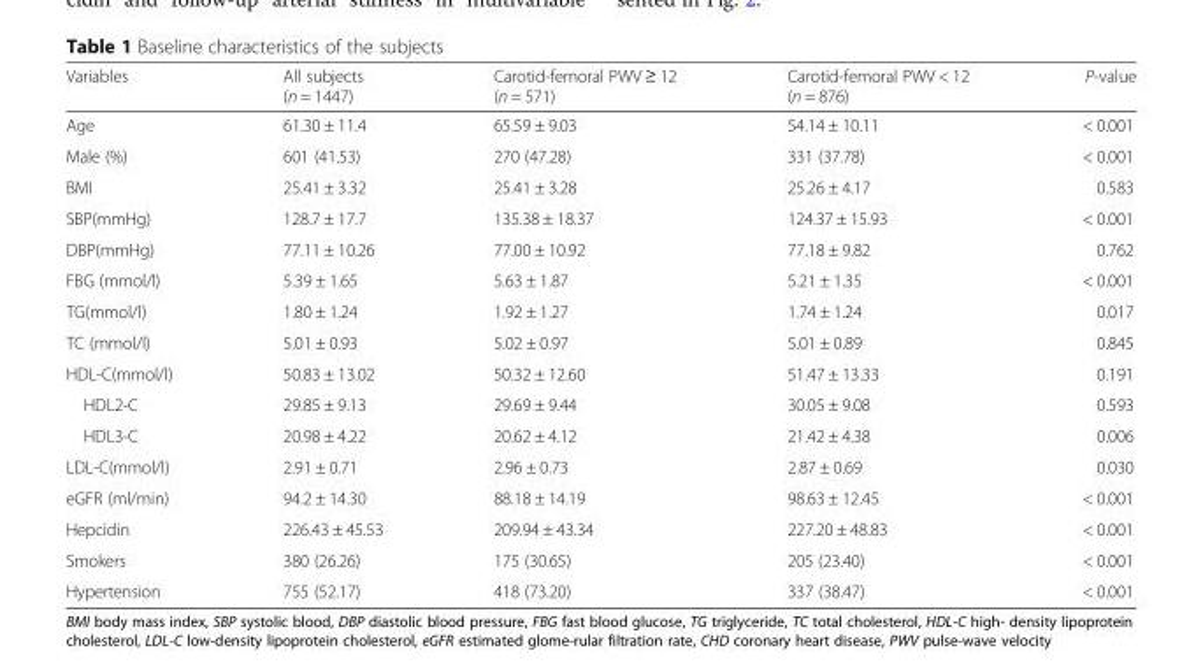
<table><thead><tr><td>Variables</td><td>All subjects (n = 1447)</td><td>Carotid-femoral PWV ≥ 12 (n = 571)</td><td>Carotid-femoral PWV &lt; 12 (n = 876)</td><td>P-value</td></tr></thead><tbody><tr><td>Age</td><td>61.30 ± 11.4</td><td>65.59 ± 9.03</td><td>54.14 ± 10.11</td><td>&lt; 0.001</td></tr><tr><td>Male (%)</td><td>601 (41.53)</td><td>270 (47.28)</td><td>331 (37.78)</td><td>&lt; 0.001</td></tr><tr><td>BMI</td><td>25.41 ± 3.32</td><td>25.41 ± 3.28</td><td>25.26 ± 4.17</td><td>0.583</td></tr><tr><td>SBP(mmHg)</td><td>128.7 ± 17.7</td><td>135.38 ± 18.37</td><td>124.37 ± 15.93</td><td>&lt; 0.001</td></tr><tr><td>DBP(mmHg)</td><td>77.11 ± 10.26</td><td>77.00 ± 10.92</td><td>77.18 ± 9.82</td><td>0.762</td></tr><tr><td>FBG (mmol/l)</td><td>5.39 ± 1.65</td><td>5.63 ± 1.87</td><td>5.21 ± 1.35</td><td>&lt; 0.001</td></tr><tr><td>TG(mmol/l)</td><td>1.80 ± 1.24</td><td>1.92 ± 1.27</td><td>1.74 ± 1.24</td><td>0.017</td></tr><tr><td>TC (mmol/l)</td><td>5.01 ± 0.93</td><td>5.02 ± 0.97</td><td>5.01 ± 0.89</td><td>0.845</td></tr><tr><td>HDL-C(mmol/l)</td><td>50.83 ± 13.02</td><td>50.32 ± 12.60</td><td>51.47 ± 13.33</td><td>0.191</td></tr><tr><td>HDL2-C</td><td>29.85 ± 9.13</td><td>29.69 ± 9.44</td><td>30.05 ± 9.08</td><td>0.593</td></tr><tr><td>HDL3-C</td><td>20.98 ± 4.22</td><td>20.62 ± 4.12</td><td>21.42 ± 4.38</td><td>0.006</td></tr><tr><td>LDL-C(mmol/l)</td><td>2.91 ± 0.71</td><td>2.96 ± 0.73</td><td>2.87 ± 0.69</td><td>0.030</td></tr><tr><td>eGFR (ml/min)</td><td>94.2 ± 14.30</td><td>88.18 ± 14.19</td><td>98.63 ± 12.45</td><td>&lt; 0.001</td></tr><tr><td>Hepcidin</td><td>226.43 ± 45.53</td><td>209.94 ± 43.34</td><td>227.20 ± 48.83</td><td>&lt; 0.001</td></tr><tr><td>Smokers</td><td>380 (26.26)</td><td>175 (30.65)</td><td>205 (23.40)</td><td>&lt; 0.001</td></tr><tr><td>Hypertension</td><td>755 (52.17)</td><td>418 (73.20)</td><td>337 (38.47)</td><td>&lt; 0.001</td></tr></tbody></table>